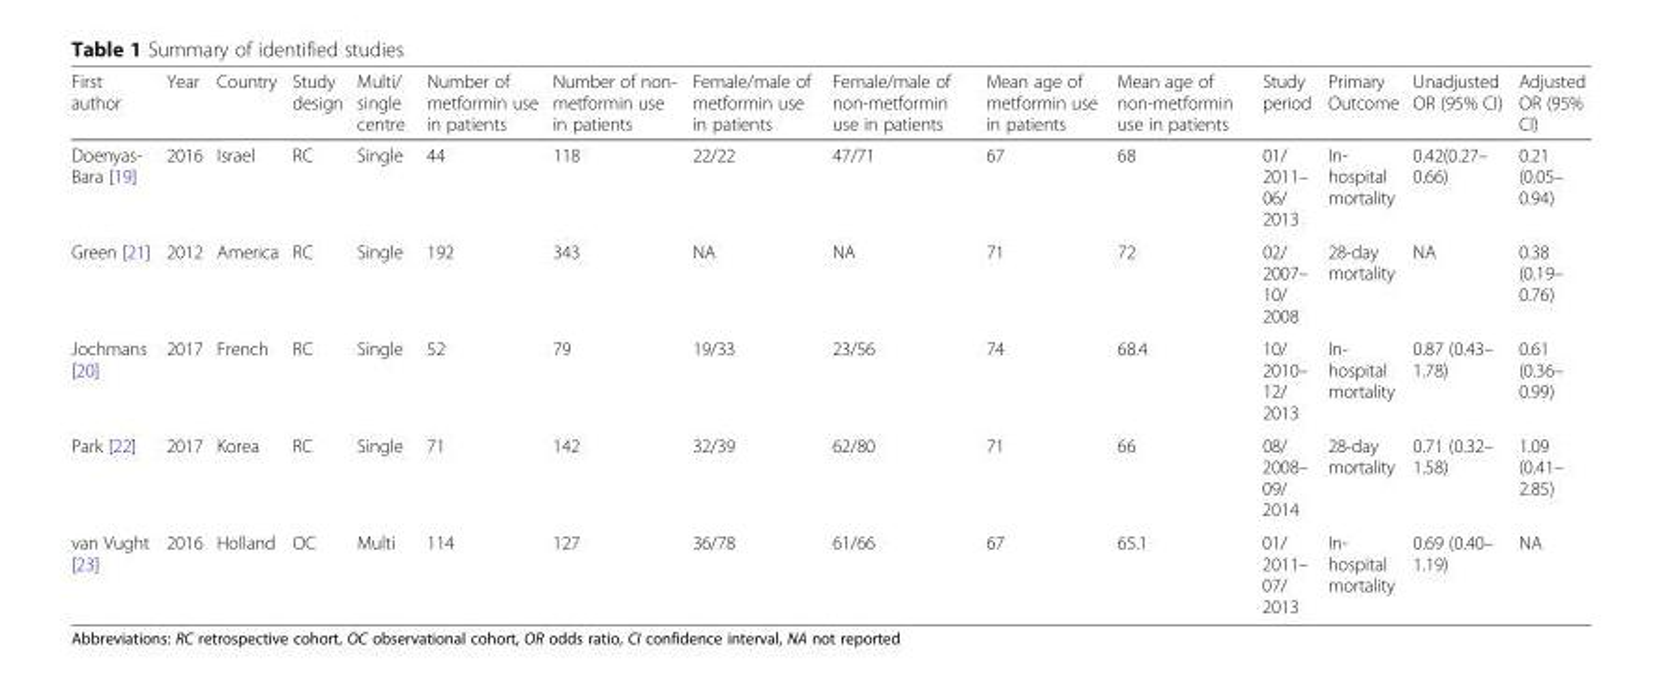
<table><thead><tr><td>First author</td><td>Year</td><td>Country</td><td>Study design</td><td>Multi/ single centre</td><td>Number of metformin use in patients</td><td>Number of non- metformin use in patients</td><td>Female/male of metformin use in patients</td><td>Female/male of non-metformin use in patients</td><td>Mean age of metformin use in patients</td><td>Mean age of non-metformin use in patients</td><td>Study period</td><td>Primary Outcome</td><td>Unadjusted OR (95% CI)</td><td>Adjusted OR (95% CI)</td></tr></thead><tbody><tr><td>Doenyas- Bara [19]</td><td>2016</td><td>Israel</td><td>RC</td><td>Single</td><td>44</td><td>118</td><td>22/22</td><td>47/71</td><td>67</td><td>68</td><td>01/ 2011– 06/ 2013</td><td>In- hospital mortality</td><td>0.42(0.27– 0.66)</td><td>0.21 (0.05– 0.94)</td></tr><tr><td>Green [21]</td><td>2012</td><td>America</td><td>RC</td><td>Single</td><td>192</td><td>343</td><td>NA</td><td>NA</td><td>71</td><td>72</td><td>02/ 2007– 10/ 2008</td><td>28-day mortality</td><td>NA</td><td>0.38 (0.19– 0.76)</td></tr><tr><td>Jochmans [20]</td><td>2017</td><td>French</td><td>RC</td><td>Single</td><td>52</td><td>79</td><td>19/33</td><td>23/56</td><td>74</td><td>68.4</td><td>10/ 2010– 12/ 2013</td><td>In- hospital mortality</td><td>0.87 (0.43– 1.78)</td><td>0.61 (0.36– 0.99)</td></tr><tr><td>Park [22]</td><td>2017</td><td>Korea</td><td>RC</td><td>Single</td><td>71</td><td>142</td><td>32/39</td><td>62/80</td><td>71</td><td>66</td><td>08/ 2008– 09/ 2014</td><td>28-day mortality</td><td>0.71 (0.32– 1.58)</td><td>1.09 (0.41– 2.85)</td></tr><tr><td>van Vught [23]</td><td>2016</td><td>Holland</td><td>OC</td><td>Multi</td><td>114</td><td>127</td><td>36/78</td><td>61/66</td><td>67</td><td>65.1</td><td>01/ 2011– 07/ 2013</td><td>In- hospital mortality</td><td>0.69 (0.40– 1.19)</td><td>NA</td></tr></tbody></table>